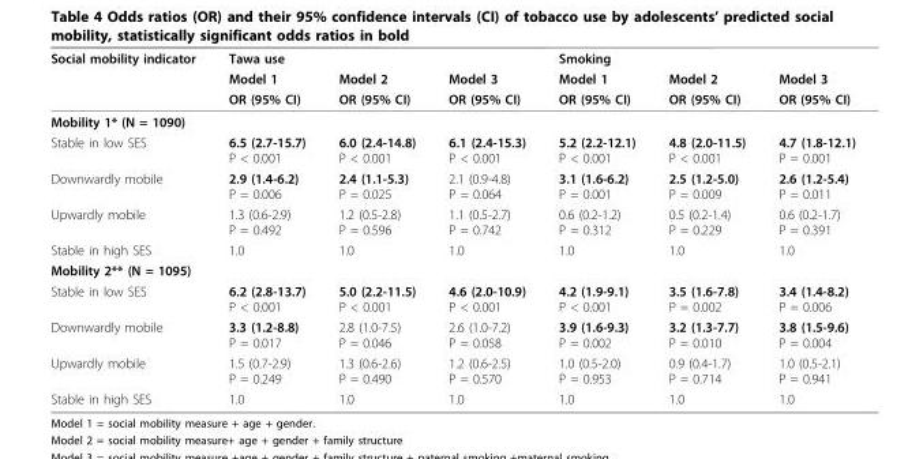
<table><thead><tr><td rowspan="3">Social mobility indicator</td><td colspan="3">Tawa use</td><td colspan="3">Smoking</td></tr><tr><td rowspan="2">Model 1 OR (95% CI)</td><td rowspan="2">Model 2 OR (95% CI)</td><td rowspan="2">Model 3 OR (95% CI)</td><td rowspan="2">Model 1 OR (95% CI)</td><td rowspan="2">Model 2 OR (95% CI)</td><td rowspan="2">Model 3 OR (95% CI)</td></tr><tr></tr></thead><tbody><tr><td colspan="7">Mobility 1* (N = 1090)</td></tr><tr><td>Stable in low SES</td><td>6.5 (2.7-15.7) P &lt; 0.001</td><td>6.0 (2.4-14.8) P &lt; 0.001</td><td>6.1 (2.4-15.3) P &lt; 0.001</td><td>5.2 (2.2-12.1) P &lt; 0.001</td><td>4.8 (2.0-11.5) P &lt; 0.001</td><td>4.7 (1.8-12.1) P = 0.001</td></tr><tr><td>Downwardly mobile</td><td>2.9 (1.4-6.2) P = 0.006</td><td>2.4 (1.1-5.3) P = 0.025</td><td>2.1 (0.9-4.8) P = 0.064</td><td>3.1 (1.6-6.2) P = 0.001</td><td>2.5 (1.2-5.0) P = 0.009</td><td>2.6 (1.2-5.4) P = 0.011</td></tr><tr><td>Upwardly mobile</td><td>1.3 (0.6-2.9) P = 0.492</td><td>1.2 (0.5-2.8) P = 0.596</td><td>1.1 (0.5-2.7) P = 0.742</td><td>0.6 (0.2-1.2) P = 0.312</td><td>0.5 (0.2-1.4) P = 0.229</td><td>0.6 (0.2-1.7) P = 0.391</td></tr><tr><td>Stable in high SES</td><td>1.0</td><td>1.0</td><td>1.0</td><td>1.0</td><td>1.0</td><td>1.0</td></tr><tr><td colspan="7">Mobility 2** (N = 1095)</td></tr><tr><td>Stable in low SES</td><td>6.2 (2.8-13.7) P &lt; 0.001</td><td>5.0 (2.2-11.5) P &lt; 0.001</td><td>4.6 (2.0-10.9) P &lt; 0.001</td><td>4.2 (1.9-9.1) P &lt; 0.001</td><td>3.5 (1.6-7.8) P = 0.002</td><td>3.4 (1.4-8.2) P = 0.006</td></tr><tr><td>Downwardly mobile</td><td>3.3 (1.2-8.8) P = 0.017</td><td>2.8 (1.0-7.5) P = 0.046</td><td>2.6 (1.0-7.2) P = 0.058</td><td>3.9 (1.6-9.3) P = 0.002</td><td>3.2 (1.3-7.7) P = 0.010</td><td>3.8 (1.5-9.6) P = 0.004</td></tr><tr><td>Upwardly mobile</td><td>1.5 (0.7-2.9) P = 0.249</td><td>1.3 (0.6-2.6) P = 0.490</td><td>1.2 (0.6-2.5) P = 0.570</td><td>1.0 (0.5-2.0) P = 0.953</td><td>0.9 (0.4-1.7) P = 0.714</td><td>1.0 (0.5-2.1) P = 0.941</td></tr><tr><td>Stable in high SES</td><td>1.0</td><td>1.0</td><td>1.0</td><td>1.0</td><td>1.0</td><td>1.0</td></tr></tbody></table>